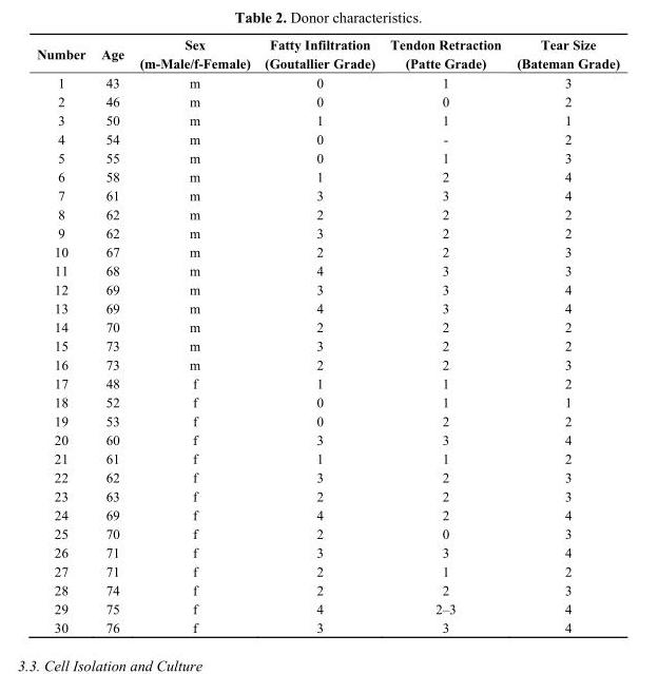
<table><thead><tr><td>Number</td><td>Age</td><td>Sex (m-Male/f-Female)</td><td>Fatty Infiltration (Goutallier Grade)</td><td>Tendon Retraction (Patte Grade)</td><td>Tear Size (Bateman Grade)</td></tr></thead><tbody><tr><td>1</td><td>43</td><td>m</td><td>0</td><td>1</td><td>3</td></tr><tr><td>2</td><td>46</td><td>m</td><td>0</td><td>0</td><td>2</td></tr><tr><td>3</td><td>50</td><td>m</td><td>1</td><td>1</td><td>1</td></tr><tr><td>4</td><td>54</td><td>m</td><td>0</td><td>-</td><td>2</td></tr><tr><td>5</td><td>55</td><td>m</td><td>0</td><td>1</td><td>3</td></tr><tr><td>6</td><td>58</td><td>m</td><td>1</td><td>2</td><td>4</td></tr><tr><td>7</td><td>61</td><td>m</td><td>3</td><td>3</td><td>4</td></tr><tr><td>8</td><td>62</td><td>m</td><td>2</td><td>2</td><td>2</td></tr><tr><td>9</td><td>62</td><td>m</td><td>3</td><td>2</td><td>2</td></tr><tr><td>10</td><td>67</td><td>m</td><td>2</td><td>2</td><td>3</td></tr><tr><td>11</td><td>68</td><td>m</td><td>4</td><td>3</td><td>3</td></tr><tr><td>12</td><td>69</td><td>m</td><td>3</td><td>3</td><td>4</td></tr><tr><td>13</td><td>69</td><td>m</td><td>4</td><td>3</td><td>4</td></tr><tr><td>14</td><td>70</td><td>m</td><td>2</td><td>2</td><td>2</td></tr><tr><td>15</td><td>73</td><td>m</td><td>3</td><td>2</td><td>2</td></tr><tr><td>16</td><td>73</td><td>m</td><td>2</td><td>2</td><td>3</td></tr><tr><td>17</td><td>48</td><td>f</td><td>1</td><td>1</td><td>2</td></tr><tr><td>18</td><td>52</td><td>f</td><td>0</td><td>1</td><td>1</td></tr><tr><td>19</td><td>53</td><td>f</td><td>0</td><td>2</td><td>2</td></tr><tr><td>20</td><td>60</td><td>f</td><td>3</td><td>3</td><td>4</td></tr><tr><td>21</td><td>61</td><td>f</td><td>1</td><td>1</td><td>2</td></tr><tr><td>22</td><td>62</td><td>f</td><td>3</td><td>2</td><td>3</td></tr><tr><td>23</td><td>63</td><td>f</td><td>2</td><td>2</td><td>3</td></tr><tr><td>24</td><td>69</td><td>f</td><td>4</td><td>2</td><td>4</td></tr><tr><td>25</td><td>70</td><td>f</td><td>2</td><td>0</td><td>3</td></tr><tr><td>26</td><td>71</td><td>f</td><td>3</td><td>3</td><td>4</td></tr><tr><td>27</td><td>71</td><td>f</td><td>2</td><td>1</td><td>2</td></tr><tr><td>28</td><td>74</td><td>f</td><td>2</td><td>2</td><td>3</td></tr><tr><td>29</td><td>75</td><td>f</td><td>4</td><td>2–3</td><td>4</td></tr><tr><td>30</td><td>76</td><td>f</td><td>3</td><td>3</td><td>4</td></tr></tbody></table>